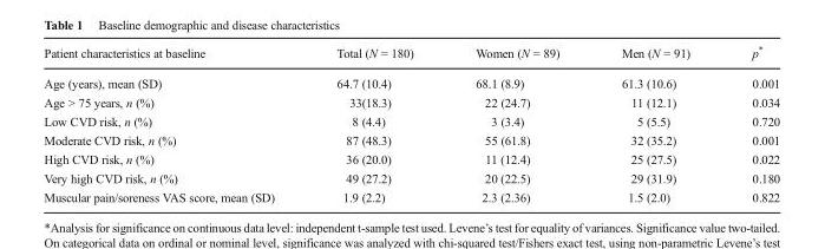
<table><thead><tr><td>Patient characteristics at baseline</td><td>Total (N = 180)</td><td>Women (N = 89)</td><td>Men (N = 91)</td><td>p*</td></tr></thead><tbody><tr><td>Age (years), mean (SD)</td><td>64.7 (10.4)</td><td>68.1 (8.9)</td><td>61.3 (10.6)</td><td>0.001</td></tr><tr><td>Age &gt; 75 years, n (%)</td><td>33(18.3)</td><td>22 (24.7)</td><td>11 (12.1)</td><td>0.034</td></tr><tr><td>Low CVD risk, n (%)</td><td>8 (4.4)</td><td>3 (3.4)</td><td>5 (5.5)</td><td>0.720</td></tr><tr><td>Moderate CVD risk, n (%)</td><td>87 (48.3)</td><td>55 (61.8)</td><td>32 (35.2)</td><td>0.001</td></tr><tr><td>High CVD risk, n (%)</td><td>36 (20.0)</td><td>11 (12.4)</td><td>25 (27.5)</td><td>0.022</td></tr><tr><td>Very high CVD risk, n (%)</td><td>49 (27.2)</td><td>20 (22.5)</td><td>29 (31.9)</td><td>0.180</td></tr><tr><td>Muscular pain/soreness VAS score, mean (SD)</td><td>1.9 (2.2)</td><td>2.3 (2.36)</td><td>1.5 (2.0)</td><td>0.822</td></tr></tbody></table>